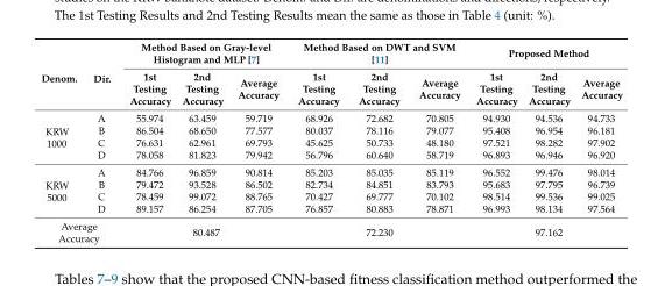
<table><thead><tr><td rowspan="2">Denom.</td><td rowspan="2">Dir.</td><td colspan="3">Method Based on Gray-level Histogram and MLP [7]</td><td colspan="3">Method Based on DWT and SVM [11]</td><td colspan="3">Proposed Method</td></tr><tr><td>1st Testing Accuracy</td><td>2nd Testing Accuracy</td><td>Average Accuracy</td><td>1st Testing Accuracy</td><td>2nd Testing Accuracy</td><td>Average Accuracy</td><td>1st Testing Accuracy</td><td>2nd Testing Accuracy</td><td>Average Accuracy</td></tr></thead><tbody><tr><td rowspan="4">KRW 1000</td><td>A</td><td>55.974</td><td>63.459</td><td>59.719</td><td>68.926</td><td>72.682</td><td>70.805</td><td>94.930</td><td>94.536</td><td>94.733</td></tr><tr><td>B</td><td>86.504</td><td>68.650</td><td>77.577</td><td>80.037</td><td>78.116</td><td>79.077</td><td>95.408</td><td>96.954</td><td>96.181</td></tr><tr><td>C</td><td>76.631</td><td>62.961</td><td>69.793</td><td>45.625</td><td>50.733</td><td>48.180</td><td>97.521</td><td>98.282</td><td>97.902</td></tr><tr><td>D</td><td>78.058</td><td>81.823</td><td>79.942</td><td>56.796</td><td>60.640</td><td>58.719</td><td>96.893</td><td>96.946</td><td>96.920</td></tr><tr><td rowspan="4">KRW 5000</td><td>A</td><td>84.766</td><td>96.859</td><td>90.814</td><td>85.203</td><td>85.035</td><td>85.119</td><td>96.552</td><td>99.476</td><td>98.014</td></tr><tr><td>B</td><td>79.472</td><td>93.528</td><td>86.502</td><td>82.734</td><td>84.851</td><td>83.793</td><td>95.683</td><td>97.795</td><td>96.739</td></tr><tr><td>C</td><td>78.459</td><td>99.072</td><td>88.765</td><td>70.427</td><td>69.777</td><td>70.102</td><td>98.514</td><td>99.536</td><td>99.025</td></tr><tr><td>D</td><td>89.157</td><td>86.254</td><td>87.705</td><td>76.857</td><td>80.883</td><td>78.871</td><td>96.993</td><td>98.134</td><td>97.564</td></tr><tr><td colspan="2">Average Accuracy</td><td colspan="3">80.487</td><td colspan="3">72.230</td><td colspan="3">97.162</td></tr></tbody></table>